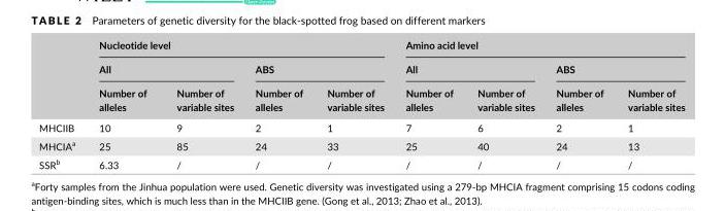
<table><thead><tr><td rowspan="3"></td><td colspan="4">Nucleotide level</td><td colspan="4">Amino acid level</td></tr><tr><td colspan="2">All</td><td colspan="2">ABS</td><td colspan="2">All</td><td colspan="2">ABS</td></tr><tr><td>Number of alleles</td><td>Number of variable sites</td><td>Number of alleles</td><td>Number of variable sites</td><td>Number of alleles</td><td>Number of variable sites</td><td>Number of alleles</td><td>Number of variable sites</td></tr></thead><tbody><tr><td>MHCIIB</td><td>10</td><td>9</td><td>2</td><td>1</td><td>7</td><td>6</td><td>2</td><td>1</td></tr><tr><td>MHCIA<sup>a</sup></td><td>25</td><td>85</td><td>24</td><td>33</td><td>25</td><td>40</td><td>24</td><td>13</td></tr><tr><td>SSR<sup>b</sup></td><td>6.33</td><td>/</td><td>/</td><td>/</td><td>/</td><td>/</td><td>/</td><td>/</td></tr></tbody></table>